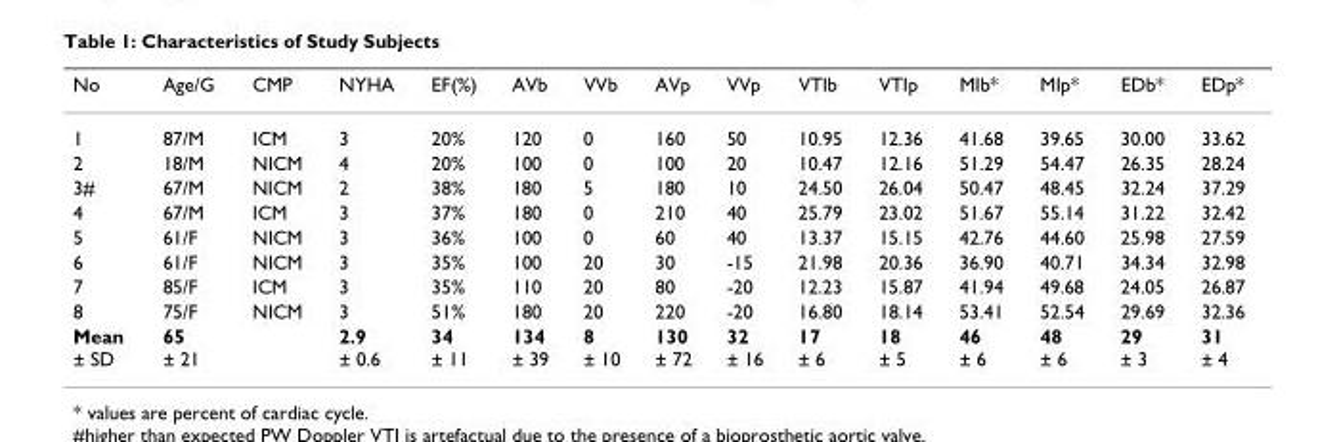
<table><thead><tr><td>No</td><td>Age/G</td><td>CMP</td><td>NYHA</td><td>EF(%)</td><td>AVb</td><td>VVb</td><td>AVp</td><td>VVp</td><td>VTIb</td><td>VTIp</td><td>MIb*</td><td>MIp*</td><td>EDb*</td><td>EDp*</td></tr></thead><tbody><tr><td>1</td><td>87/M</td><td>ICM</td><td>3</td><td>20%</td><td>120</td><td>0</td><td>160</td><td>50</td><td>10.95</td><td>12.36</td><td>41.68</td><td>39.65</td><td>30.00</td><td>33.62</td></tr><tr><td>2</td><td>18/M</td><td>NICM</td><td>4</td><td>20%</td><td>100</td><td>0</td><td>100</td><td>20</td><td>10.47</td><td>12.16</td><td>51.29</td><td>54.47</td><td>26.35</td><td>28.24</td></tr><tr><td>3#</td><td>67/M</td><td>NICM</td><td>2</td><td>38%</td><td>180</td><td>5</td><td>180</td><td>10</td><td>24.50</td><td>26.04</td><td>50.47</td><td>48.45</td><td>32.24</td><td>37.29</td></tr><tr><td>4</td><td>67/M</td><td>ICM</td><td>3</td><td>37%</td><td>180</td><td>0</td><td>210</td><td>40</td><td>25.79</td><td>23.02</td><td>51.67</td><td>55.14</td><td>31.22</td><td>32.42</td></tr><tr><td>5</td><td>61/F</td><td>NICM</td><td>3</td><td>36%</td><td>100</td><td>0</td><td>60</td><td>40</td><td>13.37</td><td>15.15</td><td>42.76</td><td>44.60</td><td>25.98</td><td>27.59</td></tr><tr><td>6</td><td>61/F</td><td>NICM</td><td>3</td><td>35%</td><td>100</td><td>20</td><td>30</td><td>-15</td><td>21.98</td><td>20.36</td><td>36.90</td><td>40.71</td><td>34.34</td><td>32.98</td></tr><tr><td>7</td><td>85/F</td><td>ICM</td><td>3</td><td>35%</td><td>110</td><td>20</td><td>80</td><td>-20</td><td>12.23</td><td>15.87</td><td>41.94</td><td>49.68</td><td>24.05</td><td>26.87</td></tr><tr><td>8</td><td>75/F</td><td>NICM</td><td>3</td><td>51%</td><td>180</td><td>20</td><td>220</td><td>-20</td><td>16.80</td><td>18.14</td><td>53.41</td><td>52.54</td><td>29.69</td><td>32.36</td></tr><tr><td>Mean ± SD</td><td>65 ± 21</td><td></td><td>2.9 ± 0.6</td><td>34 ± 11</td><td>134 ± 39</td><td>8 ± 10</td><td>130 ± 72</td><td>32 ± 16</td><td>17 ± 6</td><td>18 ± 5</td><td>46 ± 6</td><td>48 ± 6</td><td>29 ± 3</td><td>31 ± 4</td></tr></tbody></table>